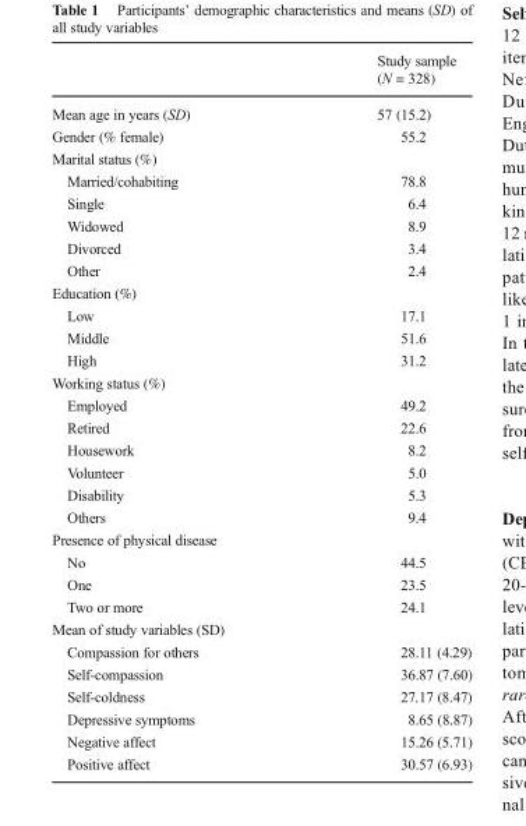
<table><thead><tr><td></td><td>Study sample (N = 328)</td></tr></thead><tbody><tr><td>Mean age in years (SD)</td><td>57 (15.2)</td></tr><tr><td>Gender (% female)</td><td>55.2</td></tr><tr><td colspan="2">Marital status (%)</td></tr><tr><td>Married/cohabiting</td><td>78.8</td></tr><tr><td>Single</td><td>6.4</td></tr><tr><td>Widowed</td><td>8.9</td></tr><tr><td>Divorced</td><td>3.4</td></tr><tr><td>Other</td><td>2.4</td></tr><tr><td colspan="2">Education (%)</td></tr><tr><td>Low</td><td>17.1</td></tr><tr><td>Middle</td><td>51.6</td></tr><tr><td>High</td><td>31.2</td></tr><tr><td colspan="2">Working status (%)</td></tr><tr><td>Employed</td><td>49.2</td></tr><tr><td>Retired</td><td>22.6</td></tr><tr><td>Housework</td><td>8.2</td></tr><tr><td>Volunteer</td><td>5.0</td></tr><tr><td>Disability</td><td>5.3</td></tr><tr><td>Others</td><td>9.4</td></tr><tr><td colspan="2">Presence of physical disease</td></tr><tr><td>No</td><td>44.5</td></tr><tr><td>One</td><td>23.5</td></tr><tr><td>Two or more</td><td>24.1</td></tr><tr><td colspan="2">Mean of study variables (SD)</td></tr><tr><td>Compassion for others</td><td>28.11 (4.29)</td></tr><tr><td>Self-compassion</td><td>36.87 (7.60)</td></tr><tr><td>Self-coldness</td><td>27.17 (8.47)</td></tr><tr><td>Depressive symptoms</td><td>8.65 (8.87)</td></tr><tr><td>Negative affect</td><td>15.26 (5.71)</td></tr><tr><td>Positive affect</td><td>30.57 (6.93)</td></tr></tbody></table>